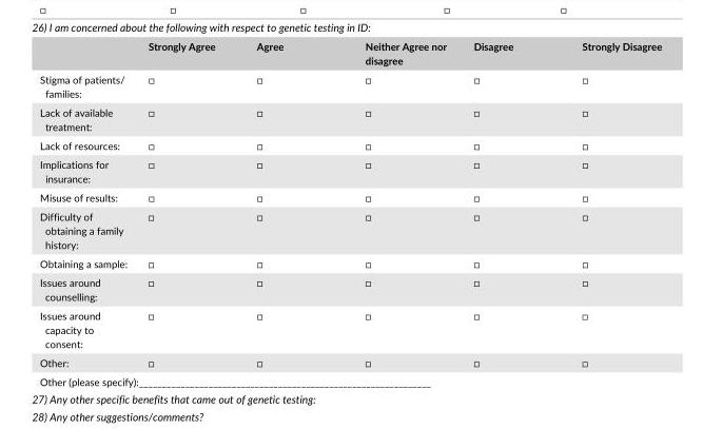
<table><thead><tr><td></td><td>Strongly Agree</td><td>Agree</td><td>Neither Agree nor disagree</td><td>Disagree</td><td>Strongly Disagree</td></tr></thead><tbody><tr><td>Stigma of patients/ families:</td><td>□</td><td>□</td><td>□</td><td>□</td><td>□</td></tr><tr><td>Lack of available treatment:</td><td>□</td><td>□</td><td>□</td><td>□</td><td>□</td></tr><tr><td>Lack of resources:</td><td>□</td><td>□</td><td>□</td><td>□</td><td>□</td></tr><tr><td>Implications for insurance:</td><td>□</td><td>□</td><td>□</td><td>□</td><td>□</td></tr><tr><td>Misuse of results:</td><td>□</td><td>□</td><td>□</td><td>□</td><td>□</td></tr><tr><td>Difficulty of obtaining a family history:</td><td>□</td><td>□</td><td>□</td><td>□</td><td>□</td></tr><tr><td>Obtaining a sample:</td><td>□</td><td>□</td><td>□</td><td>□</td><td>□</td></tr><tr><td>Issues around counselling:</td><td>□</td><td>□</td><td>□</td><td>□</td><td>□</td></tr><tr><td>Issues around capacity to consent:</td><td>□</td><td>□</td><td>□</td><td>□</td><td>□</td></tr><tr><td>Other:</td><td>□</td><td>□</td><td>□</td><td>□</td><td>□</td></tr><tr><td colspan="6">Other (please specify):_______________________________________________________________</td></tr></tbody></table>